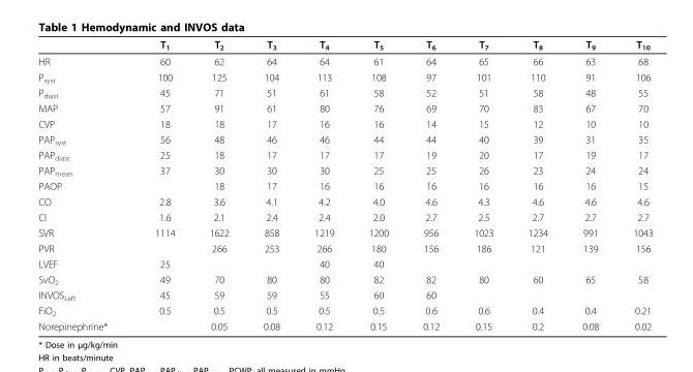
<table><thead><tr><td></td><td>T<sub>1</sub></td><td>T<sub>2</sub></td><td>T<sub>3</sub></td><td>T<sub>4</sub></td><td>T<sub>5</sub></td><td>T<sub>6</sub></td><td>T<sub>7</sub></td><td>T<sub>8</sub></td><td>T<sub>9</sub></td><td>T<sub>10</sub></td></tr></thead><tbody><tr><td>HR</td><td>60</td><td>62</td><td>64</td><td>64</td><td>61</td><td>64</td><td>65</td><td>66</td><td>63</td><td>68</td></tr><tr><td>P<sub>syst</sub></td><td>100</td><td>125</td><td>104</td><td>113</td><td>108</td><td>97</td><td>101</td><td>110</td><td>91</td><td>106</td></tr><tr><td>P<sub>diast</sub></td><td>45</td><td>71</td><td>51</td><td>61</td><td>58</td><td>52</td><td>51</td><td>58</td><td>48</td><td>55</td></tr><tr><td>MAP</td><td>57</td><td>91</td><td>61</td><td>80</td><td>76</td><td>69</td><td>70</td><td>83</td><td>67</td><td>70</td></tr><tr><td>CVP</td><td>18</td><td>18</td><td>17</td><td>16</td><td>16</td><td>14</td><td>15</td><td>12</td><td>10</td><td>10</td></tr><tr><td>PAP<sub>syst</sub></td><td>56</td><td>48</td><td>46</td><td>46</td><td>44</td><td>44</td><td>40</td><td>39</td><td>31</td><td>35</td></tr><tr><td>PAP<sub>diast</sub></td><td>25</td><td>18</td><td>17</td><td>17</td><td>17</td><td>19</td><td>20</td><td>17</td><td>19</td><td>17</td></tr><tr><td>PAP<sub>mean</sub></td><td>37</td><td>30</td><td>30</td><td>30</td><td>25</td><td>25</td><td>26</td><td>23</td><td>24</td><td>24</td></tr><tr><td>PAOP</td><td></td><td>18</td><td>17</td><td>16</td><td>16</td><td>16</td><td>16</td><td>16</td><td>16</td><td>15</td></tr><tr><td>CO</td><td>2.8</td><td>3.6</td><td>4.1</td><td>4.2</td><td>4.0</td><td>4.6</td><td>4.3</td><td>4.6</td><td>4.6</td><td>4.6</td></tr><tr><td>CI</td><td>1.6</td><td>2.1</td><td>2.4</td><td>2.4</td><td>2.0</td><td>2.7</td><td>2.5</td><td>2.7</td><td>2.7</td><td>2.7</td></tr><tr><td>SVR</td><td>1114</td><td>1622</td><td>858</td><td>1219</td><td>1200</td><td>956</td><td>1023</td><td>1234</td><td>991</td><td>1043</td></tr><tr><td>PVR</td><td></td><td>266</td><td>253</td><td>266</td><td>180</td><td>156</td><td>186</td><td>121</td><td>139</td><td>156</td></tr><tr><td>LVEF</td><td>25</td><td></td><td></td><td>40</td><td>40</td><td></td><td></td><td></td><td></td><td></td></tr><tr><td>SvO<sub>2</sub></td><td>49</td><td>70</td><td>80</td><td>80</td><td>82</td><td>82</td><td>80</td><td>60</td><td>65</td><td>58</td></tr><tr><td>INVOS<sub>Left</sub></td><td>45</td><td>59</td><td>59</td><td>55</td><td>60</td><td>60</td><td></td><td></td><td></td><td></td></tr><tr><td>FiO<sub>2</sub></td><td>0.5</td><td>0.5</td><td>0.5</td><td>0.5</td><td>0.5</td><td>0.6</td><td>0.6</td><td>0.4</td><td>0.4</td><td>0.21</td></tr><tr><td>Norepinephrine*</td><td></td><td>0.05</td><td>0.08</td><td>0.12</td><td>0.15</td><td>0.12</td><td>0.15</td><td>0.2</td><td>0.08</td><td>0.02</td></tr></tbody></table>